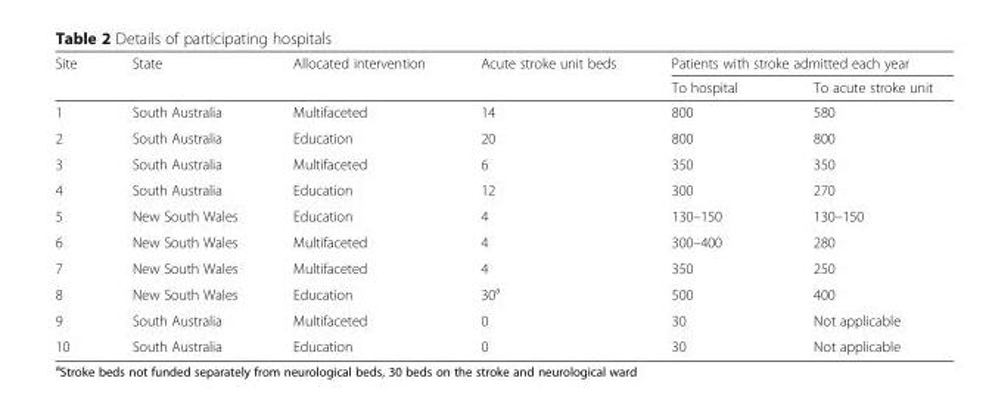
<table><thead><tr><td rowspan="2">Site</td><td rowspan="2">State</td><td rowspan="2">Allocated intervention</td><td rowspan="2">Acute stroke unit beds</td><td colspan="2">Patients with stroke admitted each year</td></tr><tr><td>To hospital</td><td>To acute stroke unit</td></tr></thead><tbody><tr><td>1</td><td>South Australia</td><td>Multifaceted</td><td>14</td><td>800</td><td>580</td></tr><tr><td>2</td><td>South Australia</td><td>Education</td><td>20</td><td>800</td><td>800</td></tr><tr><td>3</td><td>South Australia</td><td>Multifaceted</td><td>6</td><td>350</td><td>350</td></tr><tr><td>4</td><td>South Australia</td><td>Education</td><td>12</td><td>300</td><td>270</td></tr><tr><td>5</td><td>New South Wales</td><td>Education</td><td>4</td><td>130–150</td><td>130–150</td></tr><tr><td>6</td><td>New South Wales</td><td>Multifaceted</td><td>4</td><td>300–400</td><td>280</td></tr><tr><td>7</td><td>New South Wales</td><td>Multifaceted</td><td>4</td><td>350</td><td>250</td></tr><tr><td>8</td><td>New South Wales</td><td>Education</td><td>30<sup>a</sup></td><td>500</td><td>400</td></tr><tr><td>9</td><td>South Australia</td><td>Multifaceted</td><td>0</td><td>30</td><td>Not applicable</td></tr><tr><td>10</td><td>South Australia</td><td>Education</td><td>0</td><td>30</td><td>Not applicable</td></tr></tbody></table>